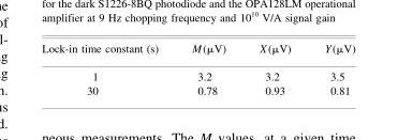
<table><thead><tr><td>Lock-in time constant (s)</td><td>M(μV)</td><td>X(μV)</td><td>Y(μV)</td></tr></thead><tbody><tr><td>1</td><td>3.2</td><td>3.2</td><td>3.5</td></tr><tr><td>30</td><td>0.78</td><td>0.93</td><td>0.81</td></tr></tbody></table>